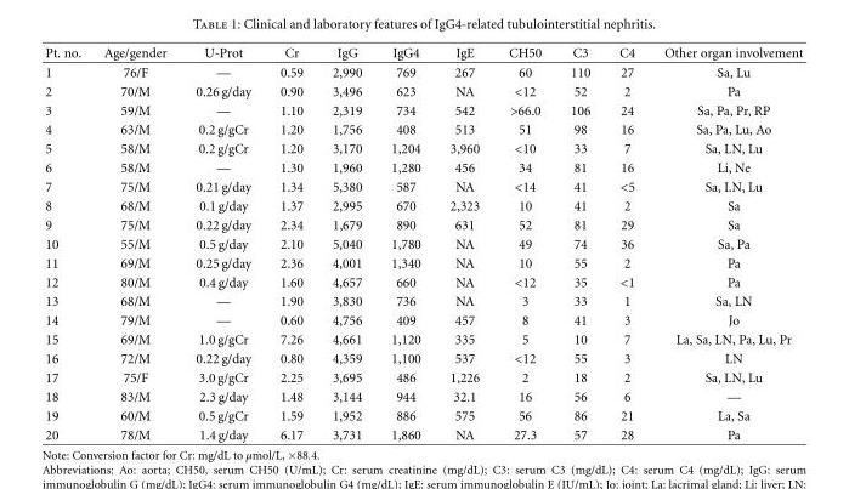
<table><thead><tr><td>Pt. no.</td><td>Age/gender</td><td>U-Prot</td><td>Cr</td><td>IgG</td><td>IgG4</td><td>IgE</td><td>CH50</td><td>C3</td><td>C4</td><td>Other organ involvement</td></tr></thead><tbody><tr><td>1</td><td>76/F</td><td>—</td><td>0.59</td><td>2,990</td><td>769</td><td>267</td><td>60</td><td>110</td><td>27</td><td>Sa, Lu</td></tr><tr><td>2</td><td>70/M</td><td>0.26 g/day</td><td>0.90</td><td>3,496</td><td>623</td><td>NA</td><td>&lt;12</td><td>52</td><td>2</td><td>Pa</td></tr><tr><td>3</td><td>59/M</td><td>—</td><td>1.10</td><td>2,319</td><td>734</td><td>542</td><td>&gt;66.0</td><td>106</td><td>24</td><td>Sa, Pa, Pr, RP</td></tr><tr><td>4</td><td>63/M</td><td>0.2 g/gCr</td><td>1.20</td><td>1,756</td><td>408</td><td>513</td><td>51</td><td>98</td><td>16</td><td>Sa, Pa, Lu, Ao</td></tr><tr><td>5</td><td>58/M</td><td>0.2 g/gCr</td><td>1.20</td><td>3,170</td><td>1,204</td><td>3,960</td><td>&lt;10</td><td>33</td><td>7</td><td>Sa, LN, Lu</td></tr><tr><td>6</td><td>58/M</td><td>—</td><td>1.30</td><td>1,960</td><td>1,280</td><td>456</td><td>34</td><td>81</td><td>16</td><td>Li, Ne</td></tr><tr><td>7</td><td>75/M</td><td>0.21 g/day</td><td>1.34</td><td>5,380</td><td>587</td><td>NA</td><td>&lt;14</td><td>41</td><td>&lt;5</td><td>Sa, LN, Lu</td></tr><tr><td>8</td><td>68/M</td><td>0.1 g/day</td><td>1.37</td><td>2,995</td><td>670</td><td>2,323</td><td>10</td><td>41</td><td>2</td><td>Sa</td></tr><tr><td>9</td><td>75/M</td><td>0.22 g/day</td><td>2.34</td><td>1,679</td><td>890</td><td>631</td><td>52</td><td>81</td><td>29</td><td>Sa</td></tr><tr><td>10</td><td>55/M</td><td>0.5 g/day</td><td>2.10</td><td>5,040</td><td>1,780</td><td>NA</td><td>49</td><td>74</td><td>36</td><td>Sa, Pa</td></tr><tr><td>11</td><td>69/M</td><td>0.25 g/day</td><td>2.36</td><td>4,001</td><td>1,340</td><td>NA</td><td>10</td><td>55</td><td>2</td><td>Pa</td></tr><tr><td>12</td><td>80/M</td><td>0.4 g/day</td><td>1.60</td><td>4,657</td><td>660</td><td>NA</td><td>&lt;12</td><td>35</td><td>&lt;1</td><td>Pa</td></tr><tr><td>13</td><td>68/M</td><td>—</td><td>1.90</td><td>3,830</td><td>736</td><td>NA</td><td>3</td><td>33</td><td>1</td><td>Sa, LN</td></tr><tr><td>14</td><td>79/M</td><td>—</td><td>0.60</td><td>4,756</td><td>409</td><td>457</td><td>8</td><td>41</td><td>3</td><td>Jo</td></tr><tr><td>15</td><td>69/M</td><td>1.0 g/gCr</td><td>7.26</td><td>4,661</td><td>1,120</td><td>335</td><td>5</td><td>10</td><td>7</td><td>La, Sa, LN, Pa, Lu, Pr</td></tr><tr><td>16</td><td>72/M</td><td>0.22 g/day</td><td>0.80</td><td>4,359</td><td>1,100</td><td>537</td><td>&lt;12</td><td>55</td><td>3</td><td>LN</td></tr><tr><td>17</td><td>75/F</td><td>3.0 g/gCr</td><td>2.25</td><td>3,695</td><td>486</td><td>1,226</td><td>2</td><td>18</td><td>2</td><td>Sa, LN, Lu</td></tr><tr><td>18</td><td>83/M</td><td>2.3 g/day</td><td>1.48</td><td>3,144</td><td>944</td><td>32.1</td><td>16</td><td>56</td><td>6</td><td>—</td></tr><tr><td>19</td><td>60/M</td><td>0.5 g/gCr</td><td>1.59</td><td>1,952</td><td>886</td><td>575</td><td>56</td><td>86</td><td>21</td><td>La, Sa</td></tr><tr><td>20</td><td>78/M</td><td>1.4 g/day</td><td>6.17</td><td>3,731</td><td>1,860</td><td>NA</td><td>27.3</td><td>57</td><td>28</td><td>Pa</td></tr></tbody></table>